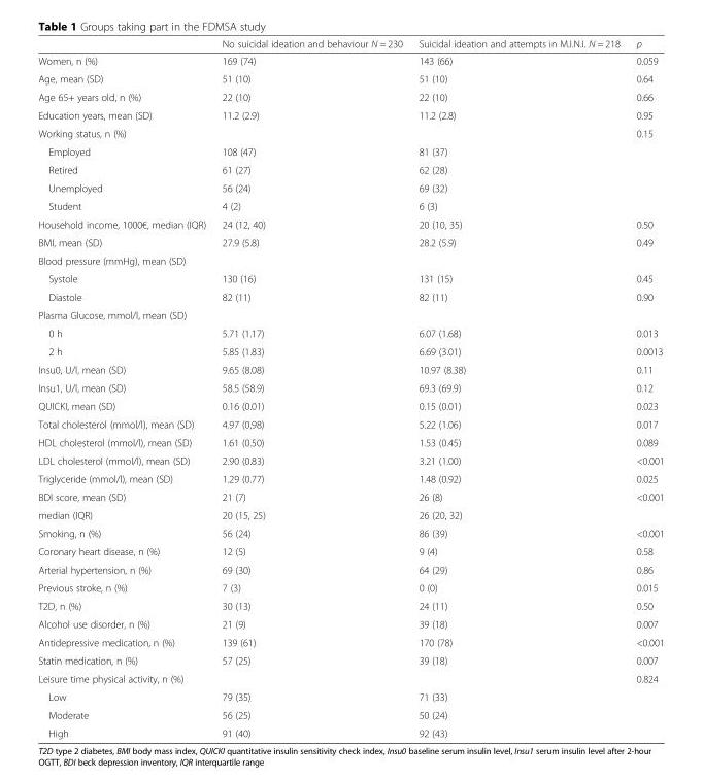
<table><thead><tr><td></td><td>No suicidal ideation and behaviour N = 230</td><td>Suicidal ideation and attempts in M.I.N.I. N = 218</td><td>p</td></tr></thead><tbody><tr><td>Women, n (%)</td><td>169 (74)</td><td>143 (66)</td><td>0.059</td></tr><tr><td>Age, mean (SD)</td><td>51 (10)</td><td>51 (10)</td><td>0.64</td></tr><tr><td>Age 65+ years old, n (%)</td><td>22 (10)</td><td>22 (10)</td><td>0.66</td></tr><tr><td>Education years, mean (SD)</td><td>11.2 (2.9)</td><td>11.2 (2.8)</td><td>0.95</td></tr><tr><td>Working status, n (%)</td><td></td><td></td><td>0.15</td></tr><tr><td>Employed</td><td>108 (47)</td><td>81 (37)</td><td></td></tr><tr><td>Retired</td><td>61 (27)</td><td>62 (28)</td><td></td></tr><tr><td>Unemployed</td><td>56 (24)</td><td>69 (32)</td><td></td></tr><tr><td>Student</td><td>4 (2)</td><td>6 (3)</td><td></td></tr><tr><td>Household income, 1000€, median (IQR)</td><td>24 (12, 40)</td><td>20 (10, 35)</td><td>0.50</td></tr><tr><td>BMI, mean (SD)</td><td>27.9 (5.8)</td><td>28.2 (5.9)</td><td>0.49</td></tr><tr><td colspan="4">Blood pressure (mmHg), mean (SD)</td></tr><tr><td>Systole</td><td>130 (16)</td><td>131 (15)</td><td>0.45</td></tr><tr><td>Diastole</td><td>82 (11)</td><td>82 (11)</td><td>0.90</td></tr><tr><td colspan="4">Plasma Glucose, mmol/l, mean (SD)</td></tr><tr><td>0 h</td><td>5.71 (1.17)</td><td>6.07 (1.68)</td><td>0.013</td></tr><tr><td>2 h</td><td>5.85 (1.83)</td><td>6.69 (3.01)</td><td>0.0013</td></tr><tr><td>Insu0, U/l, mean (SD)</td><td>9.65 (8.08)</td><td>10.97 (8.38)</td><td>0.11</td></tr><tr><td>Insu1, U/l, mean (SD)</td><td>58.5 (58.9)</td><td>69.3 (69.9)</td><td>0.12</td></tr><tr><td>QUICKI, mean (SD)</td><td>0.16 (0.01)</td><td>0.15 (0.01)</td><td>0.023</td></tr><tr><td>Total cholesterol (mmol/l), mean (SD)</td><td>4.97 (0,98)</td><td>5.22 (1.06)</td><td>0.017</td></tr><tr><td>HDL cholesterol (mmol/l), mean (SD)</td><td>1.61 (0.50)</td><td>1.53 (0.45)</td><td>0.089</td></tr><tr><td>LDL cholesterol (mmol/l), mean (SD)</td><td>2.90 (0.83)</td><td>3.21 (1.00)</td><td>&lt;0.001</td></tr><tr><td>Triglyceride (mmol/l), mean (SD)</td><td>1.29 (0.77)</td><td>1.48 (0.92)</td><td>0.025</td></tr><tr><td>BDI score, mean (SD)</td><td>21 (7)</td><td>26 (8)</td><td rowspan="2">&lt;0.001</td></tr><tr><td>median (IQR)</td><td>20 (15, 25)</td><td>26 (20, 32)</td></tr><tr><td>Smoking, n (%)</td><td>56 (24)</td><td>86 (39)</td><td>&lt;0.001</td></tr><tr><td>Coronary heart disease, n (%)</td><td>12 (5)</td><td>9 (4)</td><td>0.58</td></tr><tr><td>Arterial hypertension, n (%)</td><td>69 (30)</td><td>64 (29)</td><td>0.86</td></tr><tr><td>Previous stroke, n (%)</td><td>7 (3)</td><td>0 (0)</td><td>0.015</td></tr><tr><td>T2D, n (%)</td><td>30 (13)</td><td>24 (11)</td><td>0.50</td></tr><tr><td>Alcohol use disorder, n (%)</td><td>21 (9)</td><td>39 (18)</td><td>0.007</td></tr><tr><td>Antidepressive medication, n (%)</td><td>139 (61)</td><td>170 (78)</td><td>&lt;0.001</td></tr><tr><td>Statin medication, n (%)</td><td>57 (25)</td><td>39 (18)</td><td>0.007</td></tr><tr><td>Leisure time physical activity, n (%)</td><td></td><td></td><td>0.824</td></tr><tr><td>Low</td><td>79 (35)</td><td>71 (33)</td><td></td></tr><tr><td>Moderate</td><td>56 (25)</td><td>50 (24)</td><td></td></tr><tr><td>High</td><td>91 (40)</td><td>92 (43)</td><td></td></tr></tbody></table>